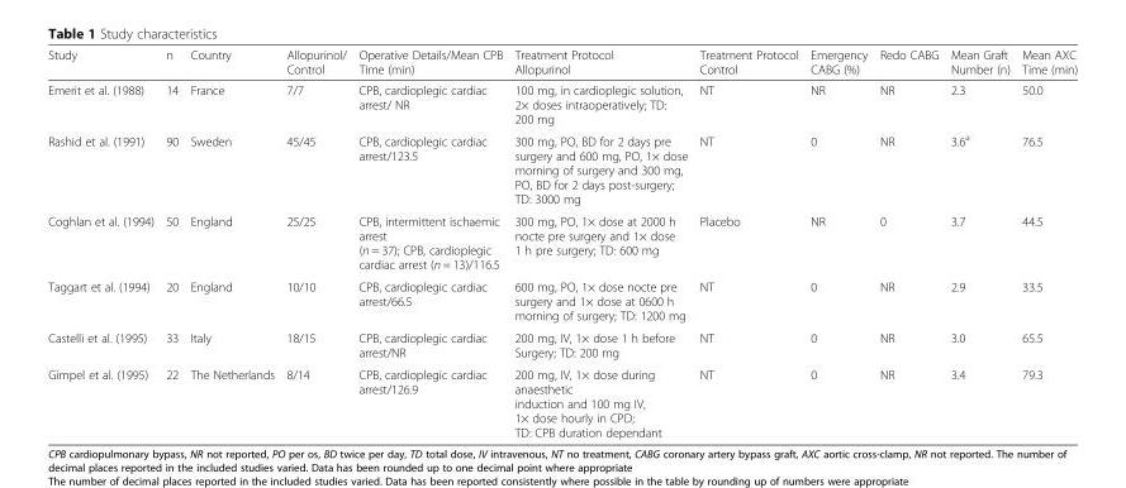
<table><thead><tr><td>Study</td><td>n</td><td>Country</td><td>Allopurinol/ Control</td><td>Operative Details/Mean CPB Time (min)</td><td>Treatment Protocol Allopurinol</td><td>Treatment Protocol Control</td><td>Emergency CABG (%)</td><td>Redo CABG</td><td>Mean Graft Number (n)</td><td>Mean AXC Time (min)</td></tr></thead><tbody><tr><td>Emerit et al. (1988)</td><td>14</td><td>France</td><td>7/7</td><td>CPB, cardioplegic cardiac arrest/ NR</td><td>100 mg, in cardioplegic solution, 2× doses intraoperatively; TD: 200 mg</td><td>NT</td><td>NR</td><td>NR</td><td>2.3</td><td>50.0</td></tr><tr><td>Rashid et al. (1991)</td><td>90</td><td>Sweden</td><td>45/45</td><td>CPB, cardioplegic cardiac arrest/123.5</td><td>300 mg, PO, BD for 2 days pre surgery and 600 mg, PO, 1× dose morning of surgery and 300 mg, PO, BD for 2 days post-surgery; TD: 3000 mg</td><td>NT</td><td>0</td><td>NR</td><td>3.6<sup>a</sup></td><td>76.5</td></tr><tr><td>Coghlan et al. (1994)</td><td>50</td><td>England</td><td>25/25</td><td>CPB, intermittent ischaemic arrest (n = 37); CPB, cardioplegic cardiac arrest (n = 13)/116.5</td><td>300 mg, PO, 1× dose at 2000 h nocte pre surgery and 1× dose 1 h pre surgery; TD: 600 mg</td><td>Placebo</td><td>NR</td><td>0</td><td>3.7</td><td>44.5</td></tr><tr><td>Taggart et al. (1994)</td><td>20</td><td>England</td><td>10/10</td><td>CPB, cardioplegic cardiac arrest/66.5</td><td>600 mg, PO, 1× dose nocte pre surgery and 1× dose at 0600 h morning of surgery; TD: 1200 mg</td><td>NT</td><td>0</td><td>NR</td><td>2.9</td><td>33.5</td></tr><tr><td>Castelli et al. (1995)</td><td>33</td><td>Italy</td><td>18/15</td><td>CPB, cardioplegic cardiac arrest/NR</td><td>200 mg, IV, 1× dose 1 h before Surgery; TD: 200 mg</td><td>NT</td><td>0</td><td>NR</td><td>3.0</td><td>65.5</td></tr><tr><td>Gimpel et al. (1995)</td><td>22</td><td>The Netherlands</td><td>8/14</td><td>CPB, cardioplegic cardiac arrest/126.9</td><td>200 mg, IV, 1× dose during anaesthetic induction and 100 mg IV, 1× dose hourly in CPD; TD: CPB duration dependant</td><td>NT</td><td>0</td><td>NR</td><td>3.4</td><td>79.3</td></tr></tbody></table>